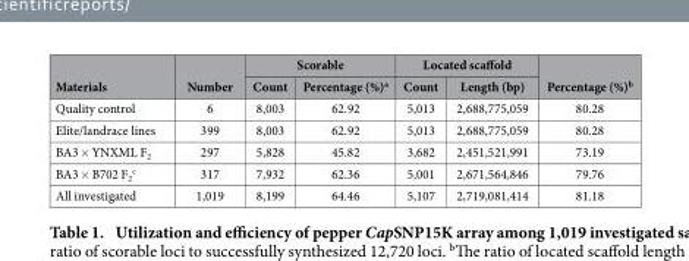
<table><thead><tr><td rowspan="2">Materials</td><td rowspan="2">Number</td><td colspan="2">Scorable</td><td colspan="2">Located scaffold</td><td rowspan="2">Percentage (%)<sup>b</sup></td></tr><tr><td>Count</td><td>Percentage (%)<sup>a</sup></td><td>Count</td><td>Length (bp)</td></tr></thead><tbody><tr><td>Quality control</td><td>6</td><td>8,003</td><td>62.92</td><td>5,013</td><td>2,688,775,059</td><td>80.28</td></tr><tr><td>Elite/landrace lines</td><td>399</td><td>8,003</td><td>62.92</td><td>5,013</td><td>2,688,775,059</td><td>80.28</td></tr><tr><td>BA3 × YNXML F<sub>2</sub></td><td>297</td><td>5,828</td><td>45.82</td><td>3,682</td><td>2,451,521,991</td><td>73.19</td></tr><tr><td>BA3 × B702 F<sub>2</sub> <sup>c</sup></td><td>317</td><td>7,932</td><td>62.36</td><td>5,001</td><td>2,671,564,846</td><td>79.76</td></tr><tr><td>All investigated</td><td>1,019</td><td>8,199</td><td>64.46</td><td>5,107</td><td>2,719,081,414</td><td>81.18</td></tr></tbody></table>